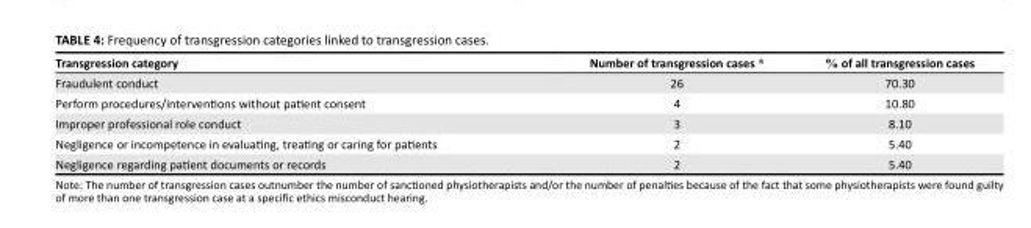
<table><thead><tr><td>Transgression category</td><td>Number of transgression cases *</td><td>% of all transgression cases</td></tr></thead><tbody><tr><td>Fraudulent conduct</td><td>26</td><td>70.30</td></tr><tr><td>Perform procedures/interventions without patient consent</td><td>4</td><td>10.80</td></tr><tr><td>Improper professional role conduct</td><td>3</td><td>8.10</td></tr><tr><td>Negligence or incompetence in evaluating, treating or caring for patients</td><td>2</td><td>5.40</td></tr><tr><td>Negligence regarding patient documents or records</td><td>2</td><td>5.40</td></tr></tbody></table>